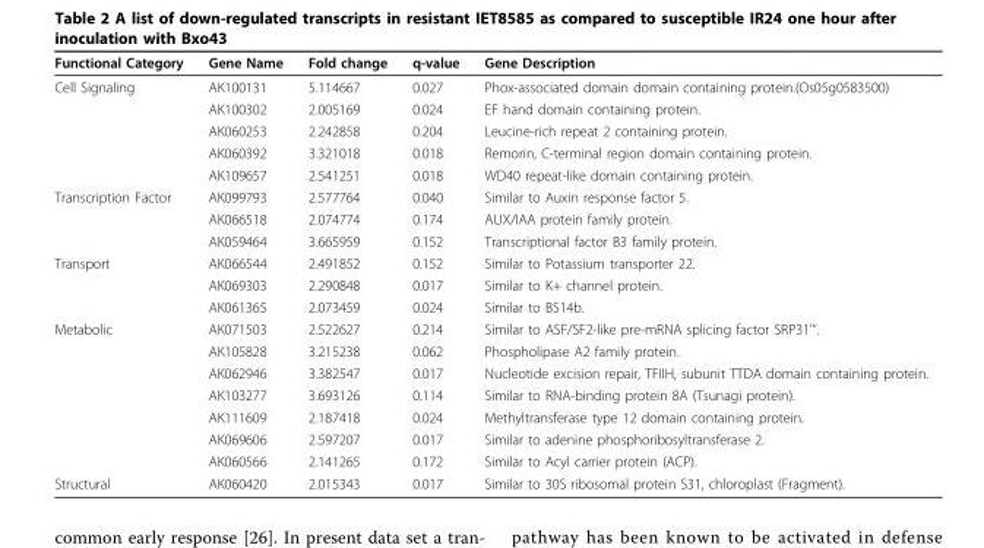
<table><thead><tr><td>Functional Category</td><td>Gene Name</td><td>Fold change</td><td>q-value</td><td>Gene Description</td></tr></thead><tbody><tr><td rowspan="5">Cell Signaling</td><td>AK100131</td><td>5.114667</td><td>0.027</td><td>Phox-associated domain domain containing protein.(Os05g0583500)</td></tr><tr><td>AK100302</td><td>2.005169</td><td>0.024</td><td>EF hand domain containing protein.</td></tr><tr><td>AK060253</td><td>2.242858</td><td>0.204</td><td>Leucine-rich repeat 2 containing protein.</td></tr><tr><td>AK060392</td><td>3.321018</td><td>0.018</td><td>Remorin, C-terminal region domain containing protein.</td></tr><tr><td>AK109657</td><td>2.541251</td><td>0.018</td><td>WD40 repeat-like domain containing protein.</td></tr><tr><td rowspan="3">Transcription Factor</td><td>AK099793</td><td>2.577764</td><td>0.040</td><td>Similar to Auxin response factor 5.</td></tr><tr><td>AK066518</td><td>2.074774</td><td>0.174</td><td>AUX/IAA protein family protein.</td></tr><tr><td>AK059464</td><td>3.665959</td><td>0.152</td><td>Transcriptional factor B3 family protein.</td></tr><tr><td rowspan="3">Transport</td><td>AK066544</td><td>2.491852</td><td>0.152</td><td>Similar to Potassium transporter 22.</td></tr><tr><td>AK069303</td><td>2.290848</td><td>0.017</td><td>Similar to K+ channel protein.</td></tr><tr><td>AK061365</td><td>2.073459</td><td>0.024</td><td>Similar to BS14b.</td></tr><tr><td rowspan="7">Metabolic</td><td>AK071503</td><td>2.522627</td><td>0.214</td><td>Similar to ASF/SF2-like pre-mRNA splicing factor SRP31’’’.</td></tr><tr><td>AK105828</td><td>3.215238</td><td>0.062</td><td>Phospholipase A2 family protein.</td></tr><tr><td>AK062946</td><td>3.382547</td><td>0.017</td><td>Nucleotide excision repair, TFIIH, subunit TTDA domain containing protein.</td></tr><tr><td>AK103277</td><td>3.693126</td><td>0.114</td><td>Similar to RNA-binding protein 8A (Tsunagi protein).</td></tr><tr><td>AK111609</td><td>2.187418</td><td>0.024</td><td>Methyltransferase type 12 domain containing protein.</td></tr><tr><td>AK069606</td><td>2.597207</td><td>0.017</td><td>Similar to adenine phosphoribosyltransferase 2.</td></tr><tr><td>AK060566</td><td>2.141265</td><td>0.172</td><td>Similar to Acyl carrier protein (ACP).</td></tr><tr><td>Structural</td><td>AK060420</td><td>2.015343</td><td>0.017</td><td>Similar to 30S ribosomal protein S31, chloroplast (Fragment).</td></tr></tbody></table>